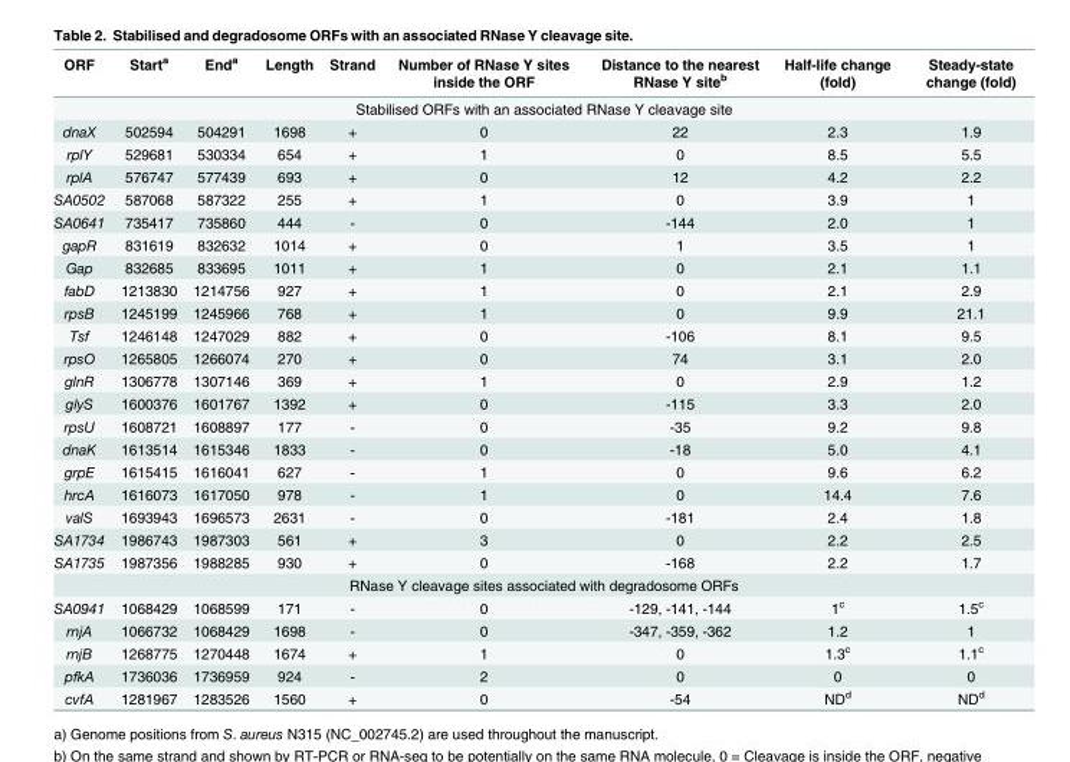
<table><thead><tr><td>ORF</td><td>Start<sup>a</sup></td><td>End<sup>a</sup></td><td>Length</td><td>Strand</td><td>Number of RNase Y sites inside the ORF</td><td>Distance to the nearest RNase Y site<sup>b</sup></td><td>Half-life change (fold)</td><td>Steady-state change (fold)</td></tr></thead><tbody><tr><td colspan="9">Stabilised ORFs with an associated RNase Y cleavage site</td></tr><tr><td>dnaX</td><td>502594</td><td>504291</td><td>1698</td><td>+</td><td>0</td><td>22</td><td>2.3</td><td>1.9</td></tr><tr><td>rplY</td><td>529681</td><td>530334</td><td>654</td><td>+</td><td>1</td><td>0</td><td>8.5</td><td>5.5</td></tr><tr><td>rplA</td><td>576747</td><td>577439</td><td>693</td><td>+</td><td>0</td><td>12</td><td>4.2</td><td>2.2</td></tr><tr><td>SA0502</td><td>587068</td><td>587322</td><td>255</td><td>+</td><td>1</td><td>0</td><td>3.9</td><td>1</td></tr><tr><td>SA0641</td><td>735417</td><td>735860</td><td>444</td><td>-</td><td>0</td><td>-144</td><td>2.0</td><td>1</td></tr><tr><td>gapR</td><td>831619</td><td>832632</td><td>1014</td><td>+</td><td>0</td><td>1</td><td>3.5</td><td>1</td></tr><tr><td>Gap</td><td>832685</td><td>833695</td><td>1011</td><td>+</td><td>1</td><td>0</td><td>2.1</td><td>1.1</td></tr><tr><td>fabD</td><td>1213830</td><td>1214756</td><td>927</td><td>+</td><td>1</td><td>0</td><td>2.1</td><td>2.9</td></tr><tr><td>rpsB</td><td>1245199</td><td>1245966</td><td>768</td><td>+</td><td>1</td><td>0</td><td>9.9</td><td>21.1</td></tr><tr><td>Tsf</td><td>1246148</td><td>1247029</td><td>882</td><td>+</td><td>0</td><td>-106</td><td>8.1</td><td>9.5</td></tr><tr><td>rpsO</td><td>1265805</td><td>1266074</td><td>270</td><td>+</td><td>0</td><td>74</td><td>3.1</td><td>2.0</td></tr><tr><td>glnR</td><td>1306778</td><td>1307146</td><td>369</td><td>+</td><td>1</td><td>0</td><td>2.9</td><td>1.2</td></tr><tr><td>glyS</td><td>1600376</td><td>1601767</td><td>1392</td><td>+</td><td>0</td><td>-115</td><td>3.3</td><td>2.0</td></tr><tr><td>rpsU</td><td>1608721</td><td>1608897</td><td>177</td><td>-</td><td>0</td><td>-35</td><td>9.2</td><td>9.8</td></tr><tr><td>dnaK</td><td>1613514</td><td>1615346</td><td>1833</td><td>-</td><td>0</td><td>-18</td><td>5.0</td><td>4.1</td></tr><tr><td>grpE</td><td>1615415</td><td>1616041</td><td>627</td><td>-</td><td>1</td><td>0</td><td>9.6</td><td>6.2</td></tr><tr><td>hrcA</td><td>1616073</td><td>1617050</td><td>978</td><td>-</td><td>1</td><td>0</td><td>14.4</td><td>7.6</td></tr><tr><td>valS</td><td>1693943</td><td>1696573</td><td>2631</td><td>-</td><td>0</td><td>-181</td><td>2.4</td><td>1.8</td></tr><tr><td>SA1734</td><td>1986743</td><td>1987303</td><td>561</td><td>+</td><td>3</td><td>0</td><td>2.2</td><td>2.5</td></tr><tr><td>SA1735</td><td>1987356</td><td>1988285</td><td>930</td><td>+</td><td>0</td><td>-168</td><td>2.2</td><td>1.7</td></tr><tr><td colspan="9">RNase Y cleavage sites associated with degradosome ORFs</td></tr><tr><td>SA0941</td><td>1068429</td><td>1068599</td><td>171</td><td>-</td><td>0</td><td>-129, -141, -144</td><td>1<sup>c</sup></td><td>1.5<sup>c</sup></td></tr><tr><td>rnjA</td><td>1066732</td><td>1068429</td><td>1698</td><td>-</td><td>0</td><td>-347, -359, -362</td><td>1.2</td><td>1</td></tr><tr><td>rnjB</td><td>1268775</td><td>1270448</td><td>1674</td><td>+</td><td>1</td><td>0</td><td>1.3<sup>c</sup></td><td>1.1<sup>c</sup></td></tr><tr><td>pfkA</td><td>1736036</td><td>1736959</td><td>924</td><td>-</td><td>2</td><td>0</td><td>0</td><td>0</td></tr><tr><td>cvfA</td><td>1281967</td><td>1283526</td><td>1560</td><td>+</td><td>0</td><td>-54</td><td>ND<sup>d</sup></td><td>ND<sup>d</sup></td></tr></tbody></table>